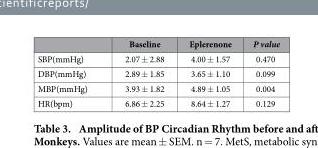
<table><thead><tr><td></td><td>Baseline</td><td>Eplerenone</td><td>P value</td></tr></thead><tbody><tr><td>SBP(mmHg)</td><td>2.07 ± 2.88</td><td>4.00 ± 1.57</td><td>0.470</td></tr><tr><td>DBP(mmHg)</td><td>2.89 ± 1.85</td><td>3.65 ± 1.10</td><td>0.099</td></tr><tr><td>MBP(mmHg)</td><td>3.93 ± 1.82</td><td>4.89 ± 1.05</td><td>0.004</td></tr><tr><td>HR(bpm)</td><td>6.86 ± 2.25</td><td>8.64 ± 1.27</td><td>0.129</td></tr></tbody></table>